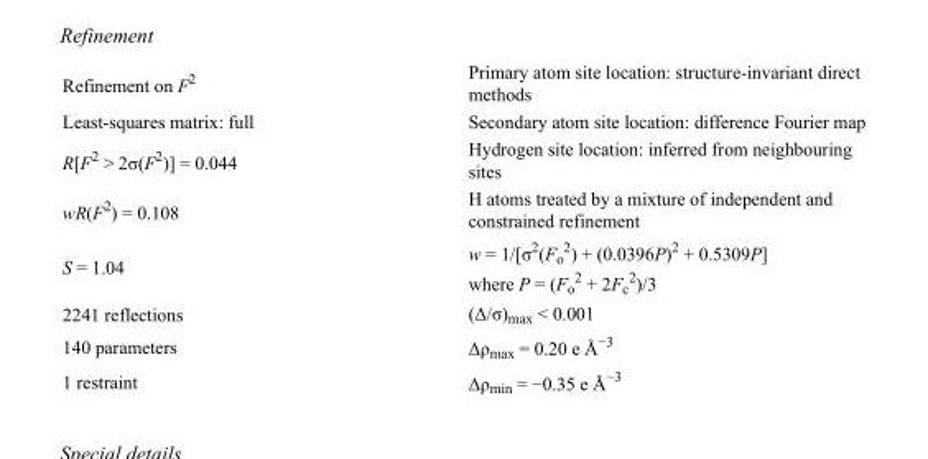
<table><tbody><tr><td>Refinement on F<sup>2</sup></td><td>Primary atom site location: structure-invariant direct methods</td></tr><tr><td>Least-squares matrix: full</td><td>Secondary atom site location: difference Fourier map</td></tr><tr><td>R[F<sup>2</sup> &gt; 2σ(F<sup>2</sup>)] = 0.044</td><td>Hydrogen site location: inferred from neighbouring sites</td></tr><tr><td>wR(F<sup>2</sup>) = 0.108</td><td>H atoms treated by a mixture of independent and constrained refinement</td></tr><tr><td>S = 1.04</td><td>w = 1/[σ<sup>2</sup>(F<sub>o</sub> <sup>2</sup>) + (0.0396P)<sup>2</sup> + 0.5309P] where P = (F<sub>o</sub> <sup>2</sup> + 2F<sub>c</sub> <sup>2</sup>)/3</td></tr><tr><td>2241 reflections</td><td>(Δ/σ)<sub>max</sub> &lt; 0.001</td></tr><tr><td>140 parameters</td><td>Δρ<sub>max</sub> = 0.20 e Å<sup>−3</sup></td></tr><tr><td>1 restraint</td><td>Δρ<sub>min</sub> = −0.35 e Å<sup>−3</sup></td></tr></tbody></table>